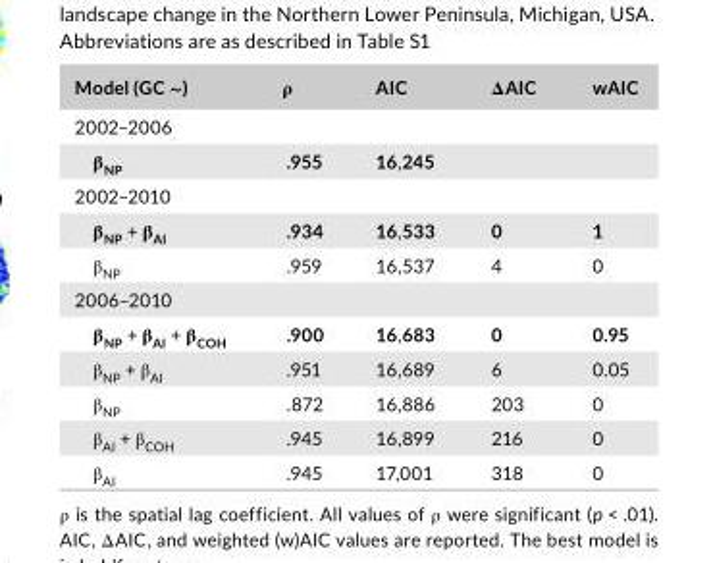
<table><thead><tr><td>Model (GC ∼)</td><td>ρ</td><td>AIC</td><td>ΔAIC</td><td>wAIC</td></tr></thead><tbody><tr><td colspan="5">2002–2006</td></tr><tr><td>β<sub>NP</sub></td><td>.955</td><td>16,245</td><td></td><td></td></tr><tr><td colspan="5">2002–2010</td></tr><tr><td>β<sub>NP</sub> + β<sub>AI</sub></td><td>.934</td><td>16,533</td><td>0</td><td>1</td></tr><tr><td>β<sub>NP</sub></td><td>.959</td><td>16,537</td><td>4</td><td>0</td></tr><tr><td colspan="5">2006–2010</td></tr><tr><td>β<sub>NP</sub> + β<sub>AI</sub> + β<sub>COH</sub></td><td>.900</td><td>16,683</td><td>0</td><td>0.95</td></tr><tr><td>β<sub>NP</sub> + β<sub>AI</sub></td><td>.951</td><td>16,689</td><td>6</td><td>0.05</td></tr><tr><td>β<sub>NP</sub></td><td>.872</td><td>16,886</td><td>203</td><td>0</td></tr><tr><td>β<sub>AI</sub> + β<sub>COH</sub></td><td>.945</td><td>16,899</td><td>216</td><td>0</td></tr><tr><td>β<sub>AI</sub></td><td>.945</td><td>17,001</td><td>318</td><td>0</td></tr></tbody></table>